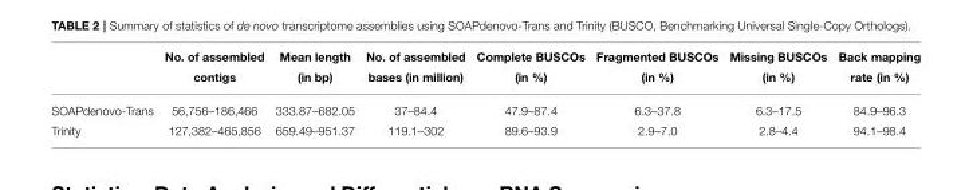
<table><thead><tr><td></td><td>No. of assembled contigs</td><td>Mean length (in bp)</td><td>No. of assembled bases (in million)</td><td>Complete BUSCOs (in %)</td><td>Fragmented BUSCOs (in %)</td><td>Missing BUSCOs (in %)</td><td>Back mapping rate (in %)</td></tr></thead><tbody><tr><td>SOAPdenovo-Trans</td><td>56,756–186,466</td><td>333.87–682.05</td><td>37–84.4</td><td>47.9–87.4</td><td>6.3–37.8</td><td>6.3–17.5</td><td>84.9–96.3</td></tr><tr><td>Trinity</td><td>127,382–465,856</td><td>659.49–951.37</td><td>119.1–302</td><td>89.6–93.9</td><td>2.9–7.0</td><td>2.8–4.4</td><td>94.1–98.4</td></tr></tbody></table>